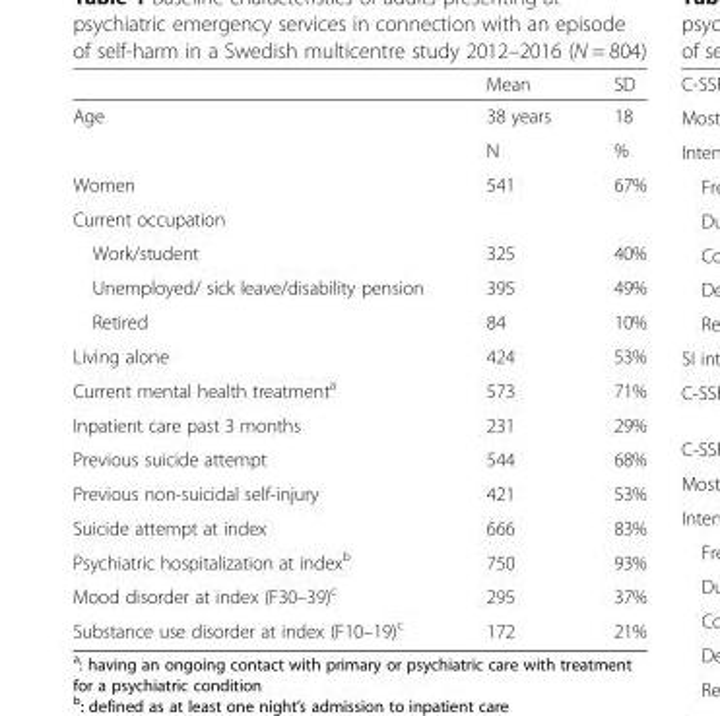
<table><thead><tr><td></td><td>Mean</td><td>SD</td></tr></thead><tbody><tr><td rowspan="2">Age</td><td>38 years</td><td>18</td></tr><tr><td>N</td><td>%</td></tr><tr><td>Women</td><td>541</td><td>67%</td></tr><tr><td colspan="3">Current occupation</td></tr><tr><td>Work/student</td><td>325</td><td>40%</td></tr><tr><td>Unemployed/ sick leave/disability pension</td><td>395</td><td>49%</td></tr><tr><td>Retired</td><td>84</td><td>10%</td></tr><tr><td>Living alone</td><td>424</td><td>53%</td></tr><tr><td>Current mental health treatment<sup>a</sup></td><td>573</td><td>71%</td></tr><tr><td>Inpatient care past 3 months</td><td>231</td><td>29%</td></tr><tr><td>Previous suicide attempt</td><td>544</td><td>68%</td></tr><tr><td>Previous non-suicidal self-injury</td><td>421</td><td>53%</td></tr><tr><td>Suicide attempt at index</td><td>666</td><td>83%</td></tr><tr><td>Psychiatric hospitalization at index<sup>b</sup></td><td>750</td><td>93%</td></tr><tr><td>Mood disorder at index (F30–39)<sup>c</sup></td><td>295</td><td>37%</td></tr><tr><td>Substance use disorder at index (F10–19)<sup>c</sup></td><td>172</td><td>21%</td></tr></tbody></table>